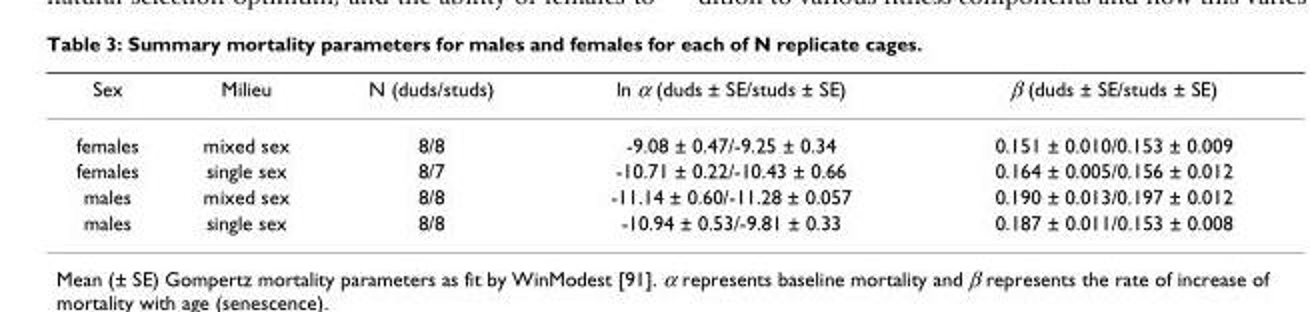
<table><thead><tr><td>Sex</td><td>Milieu</td><td>N (duds/studs)</td><td>ln α (duds ± SE/studs ± SE)</td><td>β (duds ± SE/studs ± SE)</td></tr></thead><tbody><tr><td>females</td><td>mixed sex</td><td>8/8</td><td>-9.08 ± 0.47/-9.25 ± 0.34</td><td>0.151 ± 0.010/0.153 ± 0.009</td></tr><tr><td>females</td><td>single sex</td><td>8/7</td><td>-10.71 ± 0.22/-10.43 ± 0.66</td><td>0.164 ± 0.005/0.156 ± 0.012</td></tr><tr><td>males</td><td>mixed sex</td><td>8/8</td><td>-11.14 ± 0.60/-11.28 ± 0.057</td><td>0.190 ± 0.013/0.197 ± 0.012</td></tr><tr><td>males</td><td>single sex</td><td>8/8</td><td>-10.94 ± 0.53/-9.81 ± 0.33</td><td>0.187 ± 0.011/0.153 ± 0.008</td></tr></tbody></table>